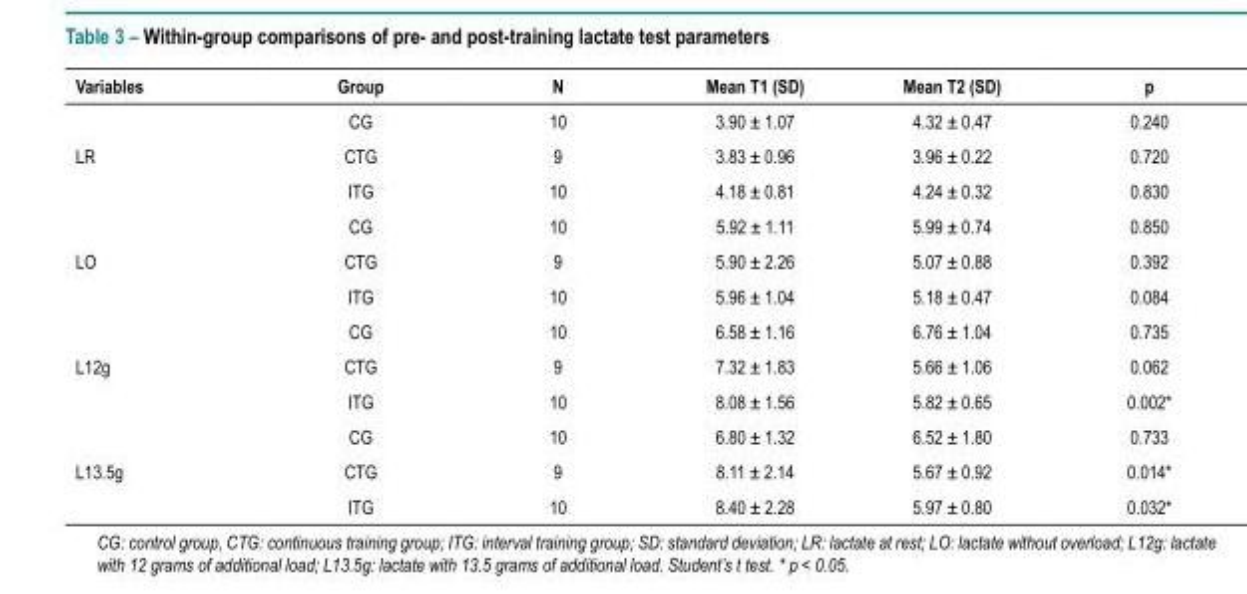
<table><thead><tr><td>Variables</td><td>Group</td><td>N</td><td>Mean T1 (SD)</td><td>Mean T2 (SD)</td><td>p</td></tr></thead><tbody><tr><td rowspan="3">LR</td><td>CG</td><td>10</td><td>3.90 ± 1.07</td><td>4.32 ± 0.47</td><td>0.240</td></tr><tr><td>CTG</td><td>9</td><td>3.83 ± 0.96</td><td>3.96 ± 0.22</td><td>0.720</td></tr><tr><td>ITG</td><td>10</td><td>4.18 ± 0.81</td><td>4.24 ± 0.32</td><td>0.830</td></tr><tr><td rowspan="3">LO</td><td>CG</td><td>10</td><td>5.92 ± 1.11</td><td>5.99 ± 0.74</td><td>0.850</td></tr><tr><td>CTG</td><td>9</td><td>5.90 ± 2.26</td><td>5.07 ± 0.88</td><td>0.392</td></tr><tr><td>ITG</td><td>10</td><td>5.96 ± 1.04</td><td>5.18 ± 0.47</td><td>0.084</td></tr><tr><td rowspan="3">L12g</td><td>CG</td><td>10</td><td>6.58 ± 1.16</td><td>6.76 ± 1.04</td><td>0.735</td></tr><tr><td>CTG</td><td>9</td><td>7.32 ± 1.83</td><td>5.66 ± 1.06</td><td>0.062</td></tr><tr><td>ITG</td><td>10</td><td>8.08 ± 1.56</td><td>5.82 ± 0.65</td><td>0.002*</td></tr><tr><td rowspan="3">L13.5g</td><td>CG</td><td>10</td><td>6.80 ± 1.32</td><td>6.52 ± 1.80</td><td>0.733</td></tr><tr><td>CTG</td><td>9</td><td>8.11 ± 2.14</td><td>5.67 ± 0.92</td><td>0.014*</td></tr><tr><td>ITG</td><td>10</td><td>8.40 ± 2.28</td><td>5.97 ± 0.80</td><td>0.032*</td></tr></tbody></table>